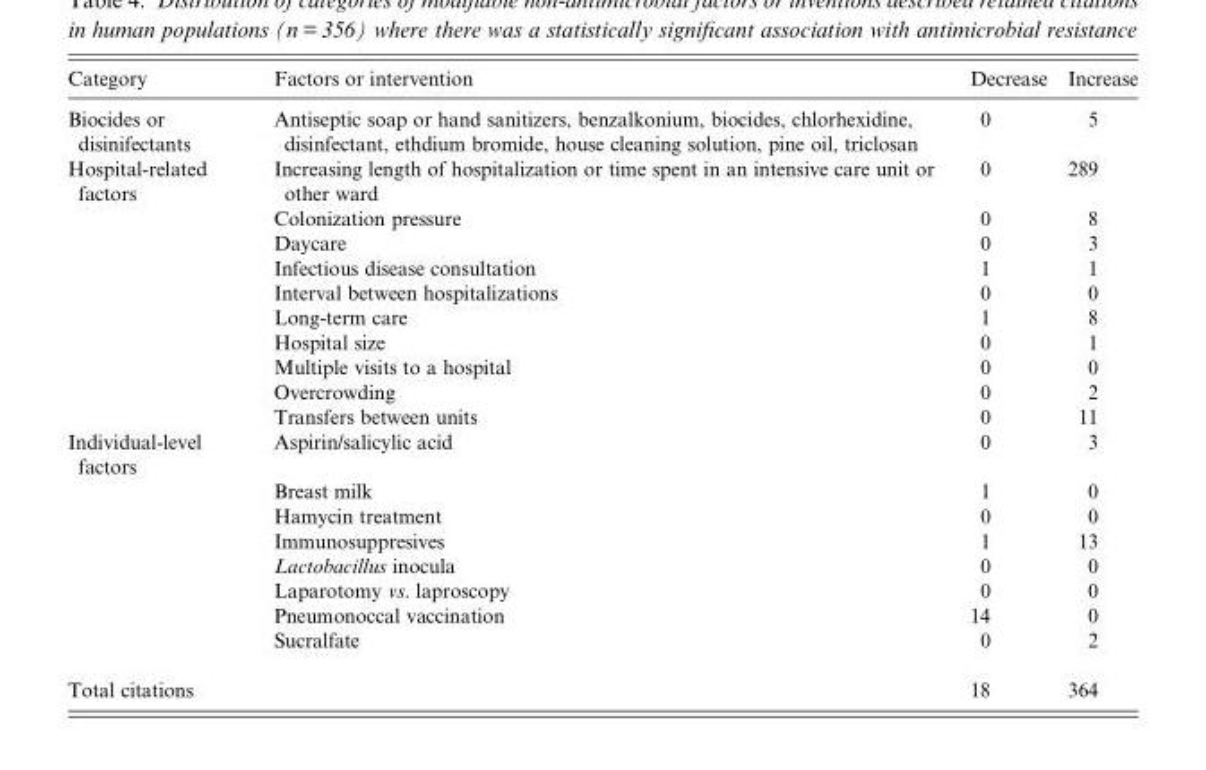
<table><thead><tr><td>Category</td><td>Factors or intervention</td><td>Decrease</td><td>Increase</td></tr></thead><tbody><tr><td>Biocides or disinifectants</td><td>Antiseptic soap or hand sanitizers, benzalkonium, biocides, chlorhexidine, disinfectant, ethdium bromide, house cleaning solution, pine oil, triclosan</td><td>0</td><td>5</td></tr><tr><td rowspan="10">Hospital-related factors</td><td>Increasing length of hospitalization or time spent in an intensive care unit or other ward</td><td>0</td><td>289</td></tr><tr><td>Colonization pressure</td><td>0</td><td>8</td></tr><tr><td>Daycare</td><td>0</td><td>3</td></tr><tr><td>Infectious disease consultation</td><td>1</td><td>1</td></tr><tr><td>Interval between hospitalizations</td><td>0</td><td>0</td></tr><tr><td>Long-term care</td><td>1</td><td>8</td></tr><tr><td>Hospital size</td><td>0</td><td>1</td></tr><tr><td>Multiple visits to a hospital</td><td>0</td><td>0</td></tr><tr><td>Overcrowding</td><td>0</td><td>2</td></tr><tr><td>Transfers between units</td><td>0</td><td>11</td></tr><tr><td rowspan="8">Individual-level factors</td><td>Aspirin/salicylic acid</td><td>0</td><td>3</td></tr><tr><td>Breast milk</td><td>1</td><td>0</td></tr><tr><td>Hamycin treatment</td><td>0</td><td>0</td></tr><tr><td>Immunosuppresives</td><td>1</td><td>13</td></tr><tr><td>Lactobacillus inocula</td><td>0</td><td>0</td></tr><tr><td>Laparotomy vs. laproscopy</td><td>0</td><td>0</td></tr><tr><td>Pneumonoccal vaccination</td><td>14</td><td>0</td></tr><tr><td>Sucralfate</td><td>0</td><td>2</td></tr><tr><td>Total citations</td><td></td><td>18</td><td>364</td></tr></tbody></table>